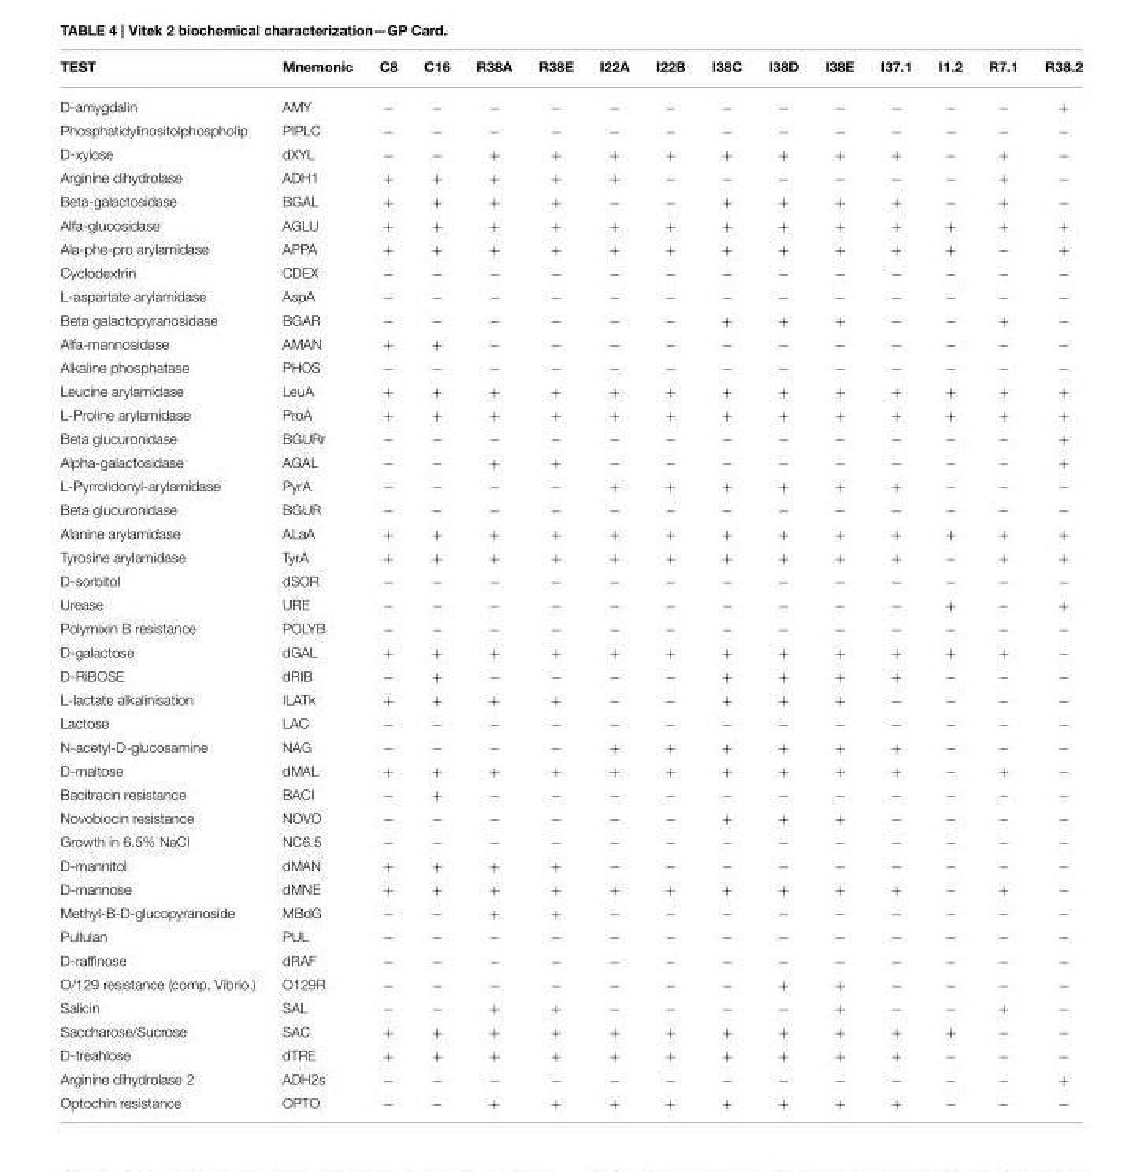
<table><thead><tr><td>TEST</td><td>Mnemonic</td><td>C8</td><td>C16</td><td>R38A</td><td>R38E</td><td>I22A</td><td>I22B</td><td>I38C</td><td>I38D</td><td>I38E</td><td>I37.1</td><td>I1.2</td><td>R7.1</td><td>R38.2</td></tr></thead><tbody><tr><td>D-amygdalin</td><td>AMY</td><td>−</td><td>−</td><td>−</td><td>−</td><td>−</td><td>−</td><td>−</td><td>−</td><td>−</td><td>−</td><td>−</td><td>−</td><td>+</td></tr><tr><td>Phosphatidylinositolphospholip</td><td>PIPLC</td><td>−</td><td>−</td><td>−</td><td>−</td><td>−</td><td>−</td><td>−</td><td>−</td><td>−</td><td>−</td><td>−</td><td>−</td><td>−</td></tr><tr><td>D-xylose</td><td>dXYL</td><td>−</td><td>−</td><td>+</td><td>+</td><td>+</td><td>+</td><td>+</td><td>+</td><td>+</td><td>+</td><td>−</td><td>+</td><td>−</td></tr><tr><td>Arginine dihydrolase</td><td>ADH1</td><td>+</td><td>+</td><td>+</td><td>+</td><td>+</td><td>−</td><td>−</td><td>−</td><td>−</td><td>−</td><td>−</td><td>+</td><td>−</td></tr><tr><td>Beta-galactosidase</td><td>BGAL</td><td>+</td><td>+</td><td>+</td><td>+</td><td>−</td><td>−</td><td>+</td><td>+</td><td>+</td><td>+</td><td>−</td><td>+</td><td>−</td></tr><tr><td>Alfa-glucosidase</td><td>AGLU</td><td>+</td><td>+</td><td>+</td><td>+</td><td>+</td><td>+</td><td>+</td><td>+</td><td>+</td><td>+</td><td>+</td><td>+</td><td>+</td></tr><tr><td>Ala-phe-pro arylamidase</td><td>APPA</td><td>+</td><td>+</td><td>+</td><td>+</td><td>+</td><td>+</td><td>+</td><td>+</td><td>+</td><td>+</td><td>+</td><td>−</td><td>+</td></tr><tr><td>Cyclodextrin</td><td>CDEX</td><td>−</td><td>−</td><td>−</td><td>−</td><td>−</td><td>−</td><td>−</td><td>−</td><td>−</td><td>−</td><td>−</td><td>−</td><td>−</td></tr><tr><td>L-aspartate arylamidase</td><td>AspA</td><td>−</td><td>−</td><td>−</td><td>−</td><td>−</td><td>−</td><td>−</td><td>−</td><td>−</td><td>−</td><td>−</td><td>−</td><td>−</td></tr><tr><td>Beta galactopyranosidase</td><td>BGAR</td><td>−</td><td>−</td><td>−</td><td>−</td><td>−</td><td>−</td><td>+</td><td>+</td><td>+</td><td>−</td><td>−</td><td>+</td><td>−</td></tr><tr><td>Alfa-mannosidase</td><td>AMAN</td><td>+</td><td>+</td><td>−</td><td>−</td><td>−</td><td>−</td><td>−</td><td>−</td><td>−</td><td>−</td><td>−</td><td>−</td><td>−</td></tr><tr><td>Alkaline phosphatase</td><td>PHOS</td><td>−</td><td>−</td><td>−</td><td>−</td><td>−</td><td>−</td><td>−</td><td>−</td><td>−</td><td>−</td><td>−</td><td>−</td><td>−</td></tr><tr><td>Leucine arylamidase</td><td>LeuA</td><td>+</td><td>+</td><td>+</td><td>+</td><td>+</td><td>+</td><td>+</td><td>+</td><td>+</td><td>+</td><td>+</td><td>+</td><td>+</td></tr><tr><td>L-Proline arylamidase</td><td>ProA</td><td>+</td><td>+</td><td>+</td><td>+</td><td>+</td><td>+</td><td>+</td><td>+</td><td>+</td><td>+</td><td>+</td><td>+</td><td>+</td></tr><tr><td>Beta glucuronidase</td><td>BGURr</td><td>−</td><td>−</td><td>−</td><td>−</td><td>−</td><td>−</td><td>−</td><td>−</td><td>−</td><td>−</td><td>−</td><td>−</td><td>+</td></tr><tr><td>Alpha-galactosidase</td><td>AGAL</td><td>−</td><td>−</td><td>+</td><td>+</td><td>−</td><td>−</td><td>−</td><td>−</td><td>−</td><td>−</td><td>−</td><td>−</td><td>+</td></tr><tr><td>L-Pyrrolidonyl-arylamidase</td><td>PyrA</td><td>−</td><td>−</td><td>−</td><td>−</td><td>+</td><td>+</td><td>+</td><td>+</td><td>+</td><td>+</td><td>−</td><td>−</td><td>−</td></tr><tr><td>Beta glucuronidase</td><td>BGUR</td><td>−</td><td>−</td><td>−</td><td>−</td><td>−</td><td>−</td><td>−</td><td>−</td><td>−</td><td>−</td><td>−</td><td>−</td><td>−</td></tr><tr><td>Alanine arylamidase</td><td>ALaA</td><td>+</td><td>+</td><td>+</td><td>+</td><td>+</td><td>+</td><td>+</td><td>+</td><td>+</td><td>+</td><td>+</td><td>+</td><td>+</td></tr><tr><td>Tyrosine arylamidase</td><td>TyrA</td><td>+</td><td>+</td><td>+</td><td>+</td><td>+</td><td>+</td><td>+</td><td>+</td><td>+</td><td>+</td><td>−</td><td>+</td><td>+</td></tr><tr><td>D-sorbitol</td><td>dSOR</td><td>−</td><td>−</td><td>−</td><td>−</td><td>−</td><td>−</td><td>−</td><td>−</td><td>−</td><td>−</td><td>−</td><td>−</td><td>−</td></tr><tr><td>Urease</td><td>URE</td><td>−</td><td>−</td><td>−</td><td>−</td><td>−</td><td>−</td><td>−</td><td>−</td><td>−</td><td>−</td><td>+</td><td>−</td><td>+</td></tr><tr><td>Polymixin B resistance</td><td>POLYB</td><td>−</td><td>−</td><td>−</td><td>−</td><td>−</td><td>−</td><td>−</td><td>−</td><td>−</td><td>−</td><td>−</td><td>−</td><td>−</td></tr><tr><td>D-galactose</td><td>dGAL</td><td>+</td><td>+</td><td>+</td><td>+</td><td>+</td><td>+</td><td>+</td><td>+</td><td>+</td><td>+</td><td>+</td><td>+</td><td>−</td></tr><tr><td>D-RiBOSE</td><td>dRIB</td><td>−</td><td>+</td><td>−</td><td>−</td><td>−</td><td>−</td><td>+</td><td>+</td><td>+</td><td>+</td><td>−</td><td>−</td><td>−</td></tr><tr><td>L-lactate alkalinisation</td><td>ILATk</td><td>+</td><td>+</td><td>+</td><td>+</td><td>−</td><td>−</td><td>+</td><td>+</td><td>+</td><td>−</td><td>−</td><td>−</td><td>−</td></tr><tr><td>Lactose</td><td>LAC</td><td>−</td><td>−</td><td>−</td><td>−</td><td>−</td><td>−</td><td>−</td><td>−</td><td>−</td><td>−</td><td>−</td><td>−</td><td>−</td></tr><tr><td>N-acetyl-D-glucosamine</td><td>NAG</td><td>−</td><td>−</td><td>−</td><td>−</td><td>+</td><td>+</td><td>+</td><td>+</td><td>+</td><td>+</td><td>−</td><td>−</td><td>−</td></tr><tr><td>D-maltose</td><td>dMAL</td><td>+</td><td>+</td><td>+</td><td>+</td><td>+</td><td>+</td><td>+</td><td>+</td><td>+</td><td>+</td><td>−</td><td>+</td><td>−</td></tr><tr><td>Bacitracin resistance</td><td>BACI</td><td>−</td><td>+</td><td>−</td><td>−</td><td>−</td><td>−</td><td>−</td><td>−</td><td>−</td><td>−</td><td>−</td><td>−</td><td>−</td></tr><tr><td>Novobiocin resistance</td><td>NOVO</td><td>−</td><td>−</td><td>−</td><td>−</td><td>−</td><td>−</td><td>+</td><td>+</td><td>+</td><td>−</td><td>−</td><td>−</td><td>−</td></tr><tr><td>Growth in 6.5% NaCl</td><td>NC6.5</td><td>−</td><td>−</td><td>−</td><td>−</td><td>−</td><td>−</td><td>−</td><td>−</td><td>−</td><td>−</td><td>−</td><td>−</td><td>−</td></tr><tr><td>D-mannitol</td><td>dMAN</td><td>+</td><td>+</td><td>+</td><td>+</td><td>−</td><td>−</td><td>−</td><td>−</td><td>−</td><td>−</td><td>−</td><td>−</td><td>−</td></tr><tr><td>D-mannose</td><td>dMNE</td><td>+</td><td>+</td><td>+</td><td>+</td><td>+</td><td>+</td><td>+</td><td>+</td><td>+</td><td>+</td><td>−</td><td>+</td><td>−</td></tr><tr><td>Methyl-B-D-glucopyranoside</td><td>MBdG</td><td>−</td><td>−</td><td>+</td><td>+</td><td>−</td><td>−</td><td>−</td><td>−</td><td>−</td><td>−</td><td>−</td><td>−</td><td>−</td></tr><tr><td>Pullulan</td><td>PUL</td><td>−</td><td>−</td><td>−</td><td>−</td><td>−</td><td>−</td><td>−</td><td>−</td><td>−</td><td>−</td><td>−</td><td>−</td><td>−</td></tr><tr><td>D-raffinose</td><td>dRAF</td><td>−</td><td>−</td><td>−</td><td>−</td><td>−</td><td>−</td><td>−</td><td>−</td><td>−</td><td>−</td><td>−</td><td>−</td><td>−</td></tr><tr><td>O/129 resistance (comp. Vibrio.)</td><td>O129R</td><td>−</td><td>−</td><td>−</td><td>−</td><td>−</td><td>−</td><td>−</td><td>+</td><td>+</td><td>−</td><td>−</td><td>−</td><td>−</td></tr><tr><td>Salicin</td><td>SAL</td><td>−</td><td>−</td><td>+</td><td>+</td><td>−</td><td>−</td><td>−</td><td>−</td><td>+</td><td>−</td><td>−</td><td>+</td><td>−</td></tr><tr><td>Saccharose/Sucrose</td><td>SAC</td><td>+</td><td>+</td><td>+</td><td>+</td><td>+</td><td>+</td><td>+</td><td>+</td><td>+</td><td>+</td><td>+</td><td>−</td><td>−</td></tr><tr><td>D-treahlose</td><td>dTRE</td><td>+</td><td>+</td><td>+</td><td>+</td><td>+</td><td>+</td><td>+</td><td>+</td><td>+</td><td>+</td><td>−</td><td>−</td><td>−</td></tr><tr><td>Arginine dihydrolase 2</td><td>ADH2s</td><td>−</td><td>−</td><td>−</td><td>−</td><td>−</td><td>−</td><td>−</td><td>−</td><td>−</td><td>−</td><td>−</td><td>−</td><td>+</td></tr><tr><td>Optochin resistance</td><td>OPTO</td><td>−</td><td>−</td><td>+</td><td>+</td><td>+</td><td>+</td><td>+</td><td>+</td><td>+</td><td>+</td><td>−</td><td>−</td><td>−</td></tr></tbody></table>